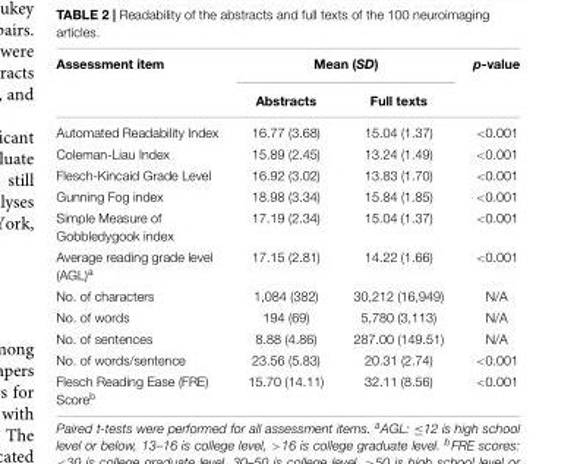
<table><thead><tr><td rowspan="2">Assessment item</td><td colspan="2">Mean (SD)</td><td rowspan="2">p-value</td></tr><tr><td>Abstracts</td><td>Full texts</td></tr></thead><tbody><tr><td>Automated Readability Index</td><td>16.77 (3.68)</td><td>15.04 (1.37)</td><td>&lt;0.001</td></tr><tr><td>Coleman-Liau Index</td><td>15.89 (2.45)</td><td>13.24 (1.49)</td><td>&lt;0.001</td></tr><tr><td>Flesch-Kincaid Grade Level</td><td>16.92 (3.02)</td><td>13.83 (1.70)</td><td>&lt;0.001</td></tr><tr><td>Gunning Fog index</td><td>18.98 (3.34)</td><td>15.84 (1.85)</td><td>&lt;0.001</td></tr><tr><td>Simple Measure of Gobbledygook index</td><td>17.19 (2.34)</td><td>15.04 (1.37)</td><td>&lt;0.001</td></tr><tr><td>Average reading grade level (AGL)<sup>a</sup></td><td>17.15 (2.81)</td><td>14.22 (1.66)</td><td>&lt;0.001</td></tr><tr><td>No. of characters</td><td>1,084 (382)</td><td>30,212 (16,949)</td><td>N/A</td></tr><tr><td>No. of words</td><td>194 (69)</td><td>5,780 (3,113)</td><td>N/A</td></tr><tr><td>No. of sentences</td><td>8.88 (4.86)</td><td>287.00 (149.51)</td><td>N/A</td></tr><tr><td>No. of words/sentence</td><td>23.56 (5.83)</td><td>20.31 (2.74)</td><td>&lt;0.001</td></tr><tr><td>Flesch Reading Ease (FRE) Score<sup>b</sup></td><td>15.70 (14.11)</td><td>32.11 (8.56)</td><td>&lt;0.001</td></tr></tbody></table>